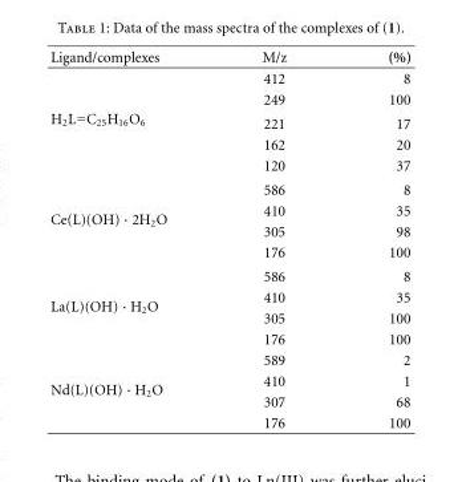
<table><tbody><tr><td>Ligand/complexes</td><td>M/z</td><td>(%)</td></tr><tr><td rowspan="5">H<sub>2</sub>L=C<sub>25</sub>H<sub>16</sub>O<sub>6</sub></td><td>412</td><td>8</td></tr><tr><td>249</td><td>100</td></tr><tr><td>221</td><td>17</td></tr><tr><td>162</td><td>20</td></tr><tr><td>120</td><td>37</td></tr><tr><td rowspan="4">Ce(L)(OH) · 2H<sub>2</sub>O</td><td>586</td><td>8</td></tr><tr><td>410</td><td>35</td></tr><tr><td>305</td><td>98</td></tr><tr><td>176</td><td>100</td></tr><tr><td rowspan="4">La(L)(OH) · H<sub>2</sub>O</td><td>586</td><td>8</td></tr><tr><td>410</td><td>35</td></tr><tr><td>305</td><td>100</td></tr><tr><td>176</td><td>100</td></tr><tr><td rowspan="4">Nd(L)(OH) · H<sub>2</sub>O</td><td>589</td><td>2</td></tr><tr><td>410</td><td>1</td></tr><tr><td>307</td><td>68</td></tr><tr><td>176</td><td>100</td></tr></tbody></table>